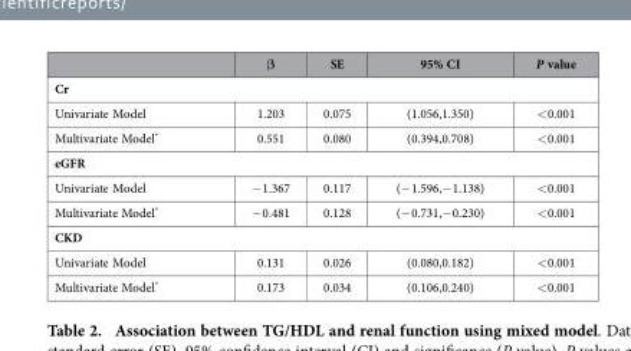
<table><thead><tr><td></td><td>β</td><td>SE</td><td>95% CI</td><td>P value</td></tr></thead><tbody><tr><td colspan="5">Cr</td></tr><tr><td>Univariate Model</td><td>1.203</td><td>0.075</td><td>(1.056,1.350)</td><td>&lt; 0.001</td></tr><tr><td>Multivariate Model*</td><td>0.551</td><td>0.080</td><td>(0.394,0.708)</td><td>&lt; 0.001</td></tr><tr><td colspan="5">eGFR</td></tr><tr><td>Univariate Model</td><td>− 1.367</td><td>0.117</td><td>(− 1.596,− 1.138)</td><td>&lt; 0.001</td></tr><tr><td>Multivariate Model*</td><td>− 0.481</td><td>0.128</td><td>(− 0.731,− 0.230)</td><td>&lt; 0.001</td></tr><tr><td colspan="5">CKD</td></tr><tr><td>Univariate Model</td><td>0.131</td><td>0.026</td><td>(0.080,0.182)</td><td>&lt; 0.001</td></tr><tr><td>Multivariate Model*</td><td>0.173</td><td>0.034</td><td>(0.106,0.240)</td><td>&lt; 0.001</td></tr></tbody></table>